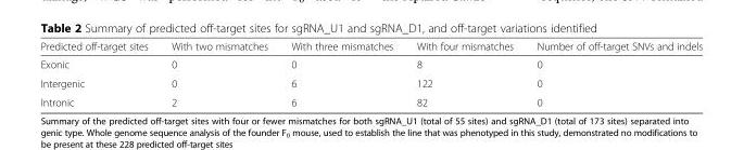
<table><thead><tr><td>Predicted off-target sites</td><td>With two mismatches</td><td>With three mismatches</td><td>With four mismatches</td><td>Number of off-target SNVs and indels</td></tr></thead><tbody><tr><td>Exonic</td><td>0</td><td>0</td><td>8</td><td>0</td></tr><tr><td>Intergenic</td><td>0</td><td>6</td><td>122</td><td>0</td></tr><tr><td>Intronic</td><td>2</td><td>6</td><td>82</td><td>0</td></tr></tbody></table>